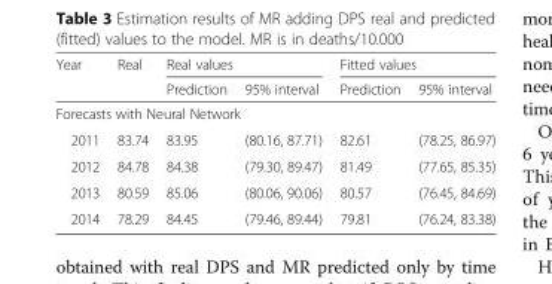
<table><thead><tr><td rowspan="2">Year</td><td rowspan="2">Real</td><td colspan="2">Real values</td><td colspan="2">Fitted values</td></tr><tr><td>Prediction</td><td>95% interval</td><td>Prediction</td><td>95% interval</td></tr></thead><tbody><tr><td colspan="6">Forecasts with Neural Network</td></tr><tr><td>2011</td><td>83.74</td><td>83.95</td><td>(80.16, 87.71)</td><td>82.61</td><td>(78.25, 86.97)</td></tr><tr><td>2012</td><td>84.78</td><td>84.38</td><td>(79.30, 89.47)</td><td>81.49</td><td>(77.65, 85.35)</td></tr><tr><td>2013</td><td>80.59</td><td>85.06</td><td>(80.06, 90.06)</td><td>80.57</td><td>(76.45, 84.69)</td></tr><tr><td>2014</td><td>78.29</td><td>84.45</td><td>(79.46, 89.44)</td><td>79.81</td><td>(76.24, 83.38)</td></tr></tbody></table>